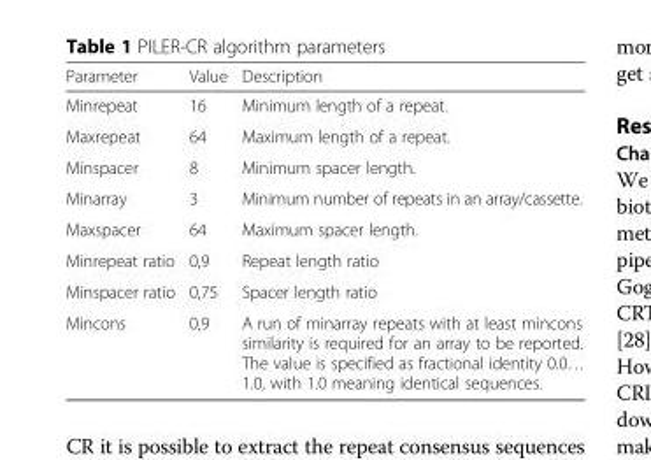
<table><thead><tr><td>Parameter</td><td>Value</td><td>Description</td></tr></thead><tbody><tr><td>Minrepeat</td><td>16</td><td>Minimum length of a repeat.</td></tr><tr><td>Maxrepeat</td><td>64</td><td>Maximum length of a repeat.</td></tr><tr><td>Minspacer</td><td>8</td><td>Minimum spacer length.</td></tr><tr><td>Minarray</td><td>3</td><td>Minimum number of repeats in an array/cassette.</td></tr><tr><td>Maxspacer</td><td>64</td><td>Maximum spacer length.</td></tr><tr><td>Minrepeat ratio</td><td>0,9</td><td>Repeat length ratio</td></tr><tr><td>Minspacer ratio</td><td>0,75</td><td>Spacer length ratio</td></tr><tr><td>Mincons</td><td>0,9</td><td>A run of minarray repeats with at least mincons similarity is required for an array to be reported. The value is specified as fractional identity 0.0… 1.0, with 1.0 meaning identical sequences.</td></tr></tbody></table>